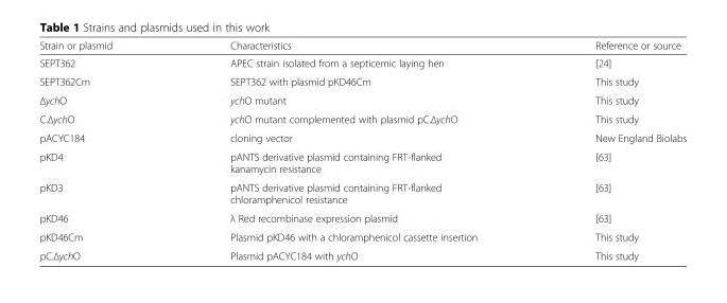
<table><thead><tr><td>Strain or plasmid</td><td>Characteristics</td><td>Reference or source</td></tr></thead><tbody><tr><td>SEPT362</td><td>APEC strain isolated from a septicemic laying hen</td><td>[24]</td></tr><tr><td>SEPT362Cm</td><td>SEPT362 with plasmid pKD46Cm</td><td>This study</td></tr><tr><td>ΔychO</td><td>ychO mutant</td><td>This study</td></tr><tr><td>C.ΔychO</td><td>ychO mutant complemented with plasmid pC.ΔychO</td><td>This study</td></tr><tr><td>pACYC184</td><td>cloning vector</td><td>New England Biolabs</td></tr><tr><td>pKD4</td><td>pANTS derivative plasmid containing FRT-flanked kanamycin resistance</td><td>[63]</td></tr><tr><td>pKD3</td><td>pANTS derivative plasmid containing FRT-flanked chloramphenicol resistance</td><td>[63]</td></tr><tr><td>pKD46</td><td>λ Red recombinase expression plasmid</td><td>[63]</td></tr><tr><td>pKD46Cm</td><td>Plasmid pKD46 with a chloramphenicol cassette insertion</td><td>This study</td></tr><tr><td>pC.ΔychO</td><td>Plasmid pACYC184 with ychO</td><td>This study</td></tr></tbody></table>